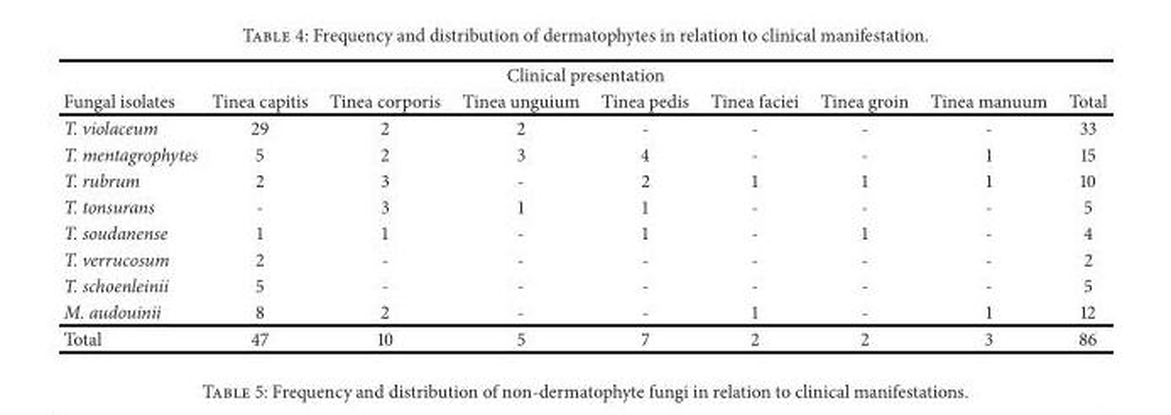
<table><thead><tr><td colspan="9">Clinical presentation</td></tr><tr><td>Fungal isolates</td><td>Tinea capitis</td><td>Tinea corporis</td><td>Tinea unguium</td><td>Tinea pedis</td><td>Tinea faciei</td><td>Tinea groin</td><td>Tinea manuum</td><td>Total</td></tr></thead><tbody><tr><td>T. violaceum</td><td>29</td><td>2</td><td>2</td><td>-</td><td>-</td><td>-</td><td>-</td><td>33</td></tr><tr><td>T. mentagrophytes</td><td>5</td><td>2</td><td>3</td><td>4</td><td>-</td><td>-</td><td>1</td><td>15</td></tr><tr><td>T. rubrum</td><td>2</td><td>3</td><td>-</td><td>2</td><td>1</td><td>1</td><td>1</td><td>10</td></tr><tr><td>T. tonsurans</td><td>-</td><td>3</td><td>1</td><td>1</td><td>-</td><td>-</td><td>-</td><td>5</td></tr><tr><td>T. soudanense</td><td>1</td><td>1</td><td>-</td><td>1</td><td>-</td><td>1</td><td>-</td><td>4</td></tr><tr><td>T. verrucosum</td><td>2</td><td>-</td><td>-</td><td>-</td><td>-</td><td>-</td><td>-</td><td>2</td></tr><tr><td>T. schoenleinii</td><td>5</td><td>-</td><td>-</td><td>-</td><td>-</td><td>-</td><td>-</td><td>5</td></tr><tr><td>M. audouinii</td><td>8</td><td>2</td><td>-</td><td>-</td><td>1</td><td>-</td><td>1</td><td>12</td></tr><tr><td>Total</td><td>47</td><td>10</td><td>5</td><td>7</td><td>2</td><td>2</td><td>3</td><td>86</td></tr></tbody></table>